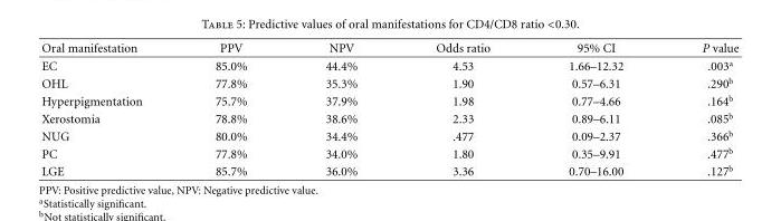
<table><thead><tr><td>Oral manifestation</td><td>PPV</td><td>NPV</td><td>Odds ratio</td><td>95% CI</td><td>P value</td></tr></thead><tbody><tr><td>EC</td><td>85.0%</td><td>44.4%</td><td>4.53</td><td>1.66–12.32</td><td>.003<sup>a</sup></td></tr><tr><td>OHL</td><td>77.8%</td><td>35.3%</td><td>1.90</td><td>0.57–6.31</td><td>.290<sup>b</sup></td></tr><tr><td>Hyperpigmentation</td><td>75.7%</td><td>37.9%</td><td>1.98</td><td>0.77–4.66</td><td>.164<sup>b</sup></td></tr><tr><td>Xerostomia</td><td>78.8%</td><td>38.6%</td><td>2.33</td><td>0.89–6.11</td><td>.085<sup>b</sup></td></tr><tr><td>NUG</td><td>80.0%</td><td>34.4%</td><td>.477</td><td>0.09–2.37</td><td>.366<sup>b</sup></td></tr><tr><td>PC</td><td>77.8%</td><td>34.0%</td><td>1.80</td><td>0.35–9.91</td><td>.477<sup>b</sup></td></tr><tr><td>LGE</td><td>85.7%</td><td>36.0%</td><td>3.36</td><td>0.70–16.00</td><td>.127<sup>b</sup></td></tr></tbody></table>